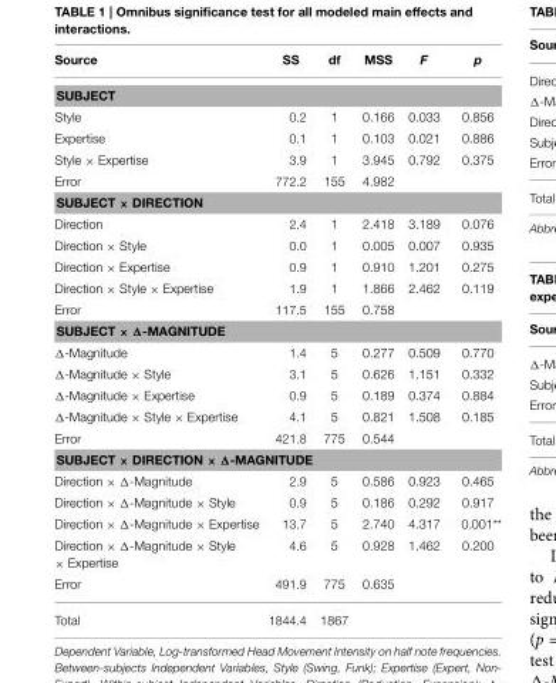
<table><thead><tr><td>Source</td><td>SS</td><td>df</td><td>MSS</td><td>F</td><td>p</td></tr></thead><tbody><tr><td colspan="6">SUBJECT</td></tr><tr><td>Style</td><td>0.2</td><td>1</td><td>0.166</td><td>0.033</td><td>0.856</td></tr><tr><td>Expertise</td><td>0.1</td><td>1</td><td>0.103</td><td>0.021</td><td>0.886</td></tr><tr><td>Style × Expertise</td><td>3.9</td><td>1</td><td>3.945</td><td>0.792</td><td>0.375</td></tr><tr><td>Error</td><td>772.2</td><td>155</td><td>4.982</td><td></td><td></td></tr><tr><td colspan="6">SUBJECT × DIRECTION</td></tr><tr><td>Direction</td><td>2.4</td><td>1</td><td>2.418</td><td>3.189</td><td>0.076</td></tr><tr><td>Direction × Style</td><td>0.0</td><td>1</td><td>0.005</td><td>0.007</td><td>0.935</td></tr><tr><td>Direction × Expertise</td><td>0.9</td><td>1</td><td>0.910</td><td>1.201</td><td>0.275</td></tr><tr><td>Direction × Style × Expertise</td><td>1.9</td><td>1</td><td>1.866</td><td>2.462</td><td>0.119</td></tr><tr><td>Error</td><td>117.5</td><td>155</td><td>0.758</td><td></td><td></td></tr><tr><td colspan="6">SUBJECT × Δ-MAGNITUDE</td></tr><tr><td>Δ-Magnitude</td><td>1.4</td><td>5</td><td>0.277</td><td>0.509</td><td>0.770</td></tr><tr><td>Δ-Magnitude × Style</td><td>3.1</td><td>5</td><td>0.626</td><td>1.151</td><td>0.332</td></tr><tr><td>Δ-Magnitude × Expertise</td><td>0.9</td><td>5</td><td>0.189</td><td>0.374</td><td>0.884</td></tr><tr><td>Δ-Magnitude × Style × Expertise</td><td>4.1</td><td>5</td><td>0.821</td><td>1.508</td><td>0.185</td></tr><tr><td>Error</td><td>421.8</td><td>775</td><td>0.544</td><td></td><td></td></tr><tr><td colspan="6">SUBJECT × DIRECTION × Δ-MAGNITUDE</td></tr><tr><td>Direction × Δ-Magnitude</td><td>2.9</td><td>5</td><td>0.586</td><td>0.923</td><td>0.465</td></tr><tr><td>Direction × Δ-Magnitude × Style</td><td>0.9</td><td>5</td><td>0.186</td><td>0.292</td><td>0.917</td></tr><tr><td>Direction × Δ-Magnitude × Expertise</td><td>13.7</td><td>5</td><td>2.740</td><td>4.317</td><td>0.001**</td></tr><tr><td>Direction × Δ-Magnitude × Style × Expertise</td><td>4.6</td><td>5</td><td>0.928</td><td>1.462</td><td>0.200</td></tr><tr><td>Error</td><td>491.9</td><td>775</td><td>0.635</td><td></td><td></td></tr><tr><td>Total</td><td>1844.4</td><td>1867</td><td></td><td></td><td></td></tr></tbody></table>